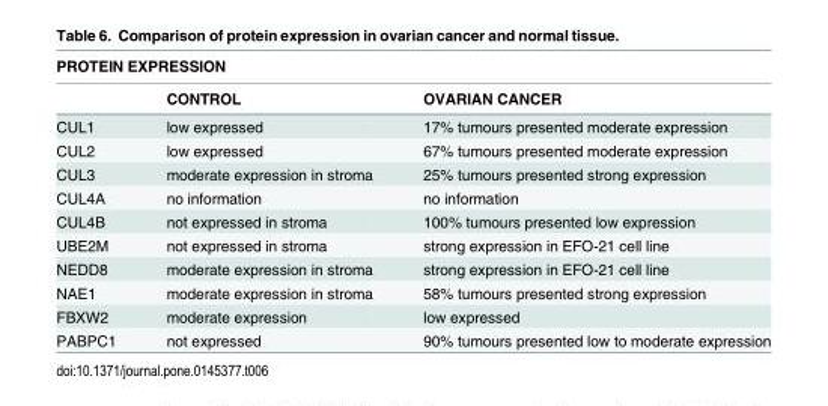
<table><thead><tr><td colspan="3">PROTEIN EXPRESSION</td></tr><tr><td></td><td>CONTROL</td><td>OVARIAN CANCER</td></tr></thead><tbody><tr><td>CUL1</td><td>low expressed</td><td>17% tumours presented moderate expression</td></tr><tr><td>CUL2</td><td>low expressed</td><td>67% tumours presented moderate expression</td></tr><tr><td>CUL3</td><td>moderate expression in stroma</td><td>25% tumours presented strong expression</td></tr><tr><td>CUL4A</td><td>no information</td><td>no information</td></tr><tr><td>CUL4B</td><td>not expressed in stroma</td><td>100% tumours presented low expression</td></tr><tr><td>UBE2M</td><td>not expressed in stroma</td><td>strong expression in EFO-21 cell line</td></tr><tr><td>NEDD8</td><td>moderate expression in stroma</td><td>strong expression in EFO-21 cell line</td></tr><tr><td>NAE1</td><td>moderate expression in stroma</td><td>58% tumours presented strong expression</td></tr><tr><td>FBXW2</td><td>moderate expression</td><td>low expressed</td></tr><tr><td>PABPC1</td><td>not expressed</td><td>90% tumours presented low to moderate expression</td></tr></tbody></table>